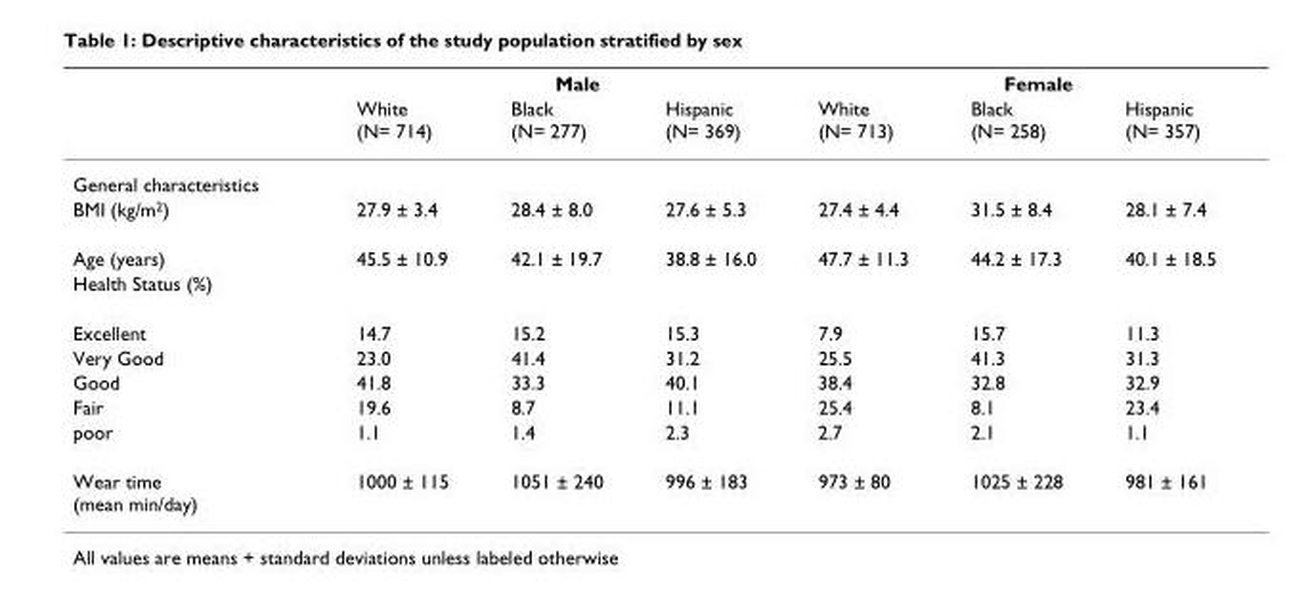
<table><thead><tr><td rowspan="2"></td><td colspan="3">Male</td><td colspan="3">Female</td></tr><tr><td>White (N= 714)</td><td>Black (N= 277)</td><td>Hispanic (N= 369)</td><td>White (N= 713)</td><td>Black (N= 258)</td><td>Hispanic (N= 357)</td></tr></thead><tbody><tr><td colspan="7">General characteristics</td></tr><tr><td>BMI (kg/m<sup>2</sup>)</td><td>27.9 ± 3.4</td><td>28.4 ± 8.0</td><td>27.6 ± 5.3</td><td>27.4 ± 4.4</td><td>31.5 ± 8.4</td><td>28.1 ± 7.4</td></tr><tr><td>Age (years)</td><td>45.5 ± 10.9</td><td>42.1 ± 19.7</td><td>38.8 ± 16.0</td><td>47.7 ± 11.3</td><td>44.2 ± 17.3</td><td>40.1 ± 18.5</td></tr><tr><td colspan="7">Health Status (%)</td></tr><tr><td>Excellent</td><td>14.7</td><td>15.2</td><td>15.3</td><td>7.9</td><td>15.7</td><td>11.3</td></tr><tr><td>Very Good</td><td>23.0</td><td>41.4</td><td>31.2</td><td>25.5</td><td>41.3</td><td>31.3</td></tr><tr><td>Good</td><td>41.8</td><td>33.3</td><td>40.1</td><td>38.4</td><td>32.8</td><td>32.9</td></tr><tr><td>Fair</td><td>19.6</td><td>8.7</td><td>11.1</td><td>25.4</td><td>8.1</td><td>23.4</td></tr><tr><td>poor</td><td>1.1</td><td>1.4</td><td>2.3</td><td>2.7</td><td>2.1</td><td>1.1</td></tr><tr><td>Wear time (mean min/day)</td><td>1000 ± 115</td><td>1051 ± 240</td><td>996 ± 183</td><td>973 ± 80</td><td>1025 ± 228</td><td>981 ± 161</td></tr></tbody></table>